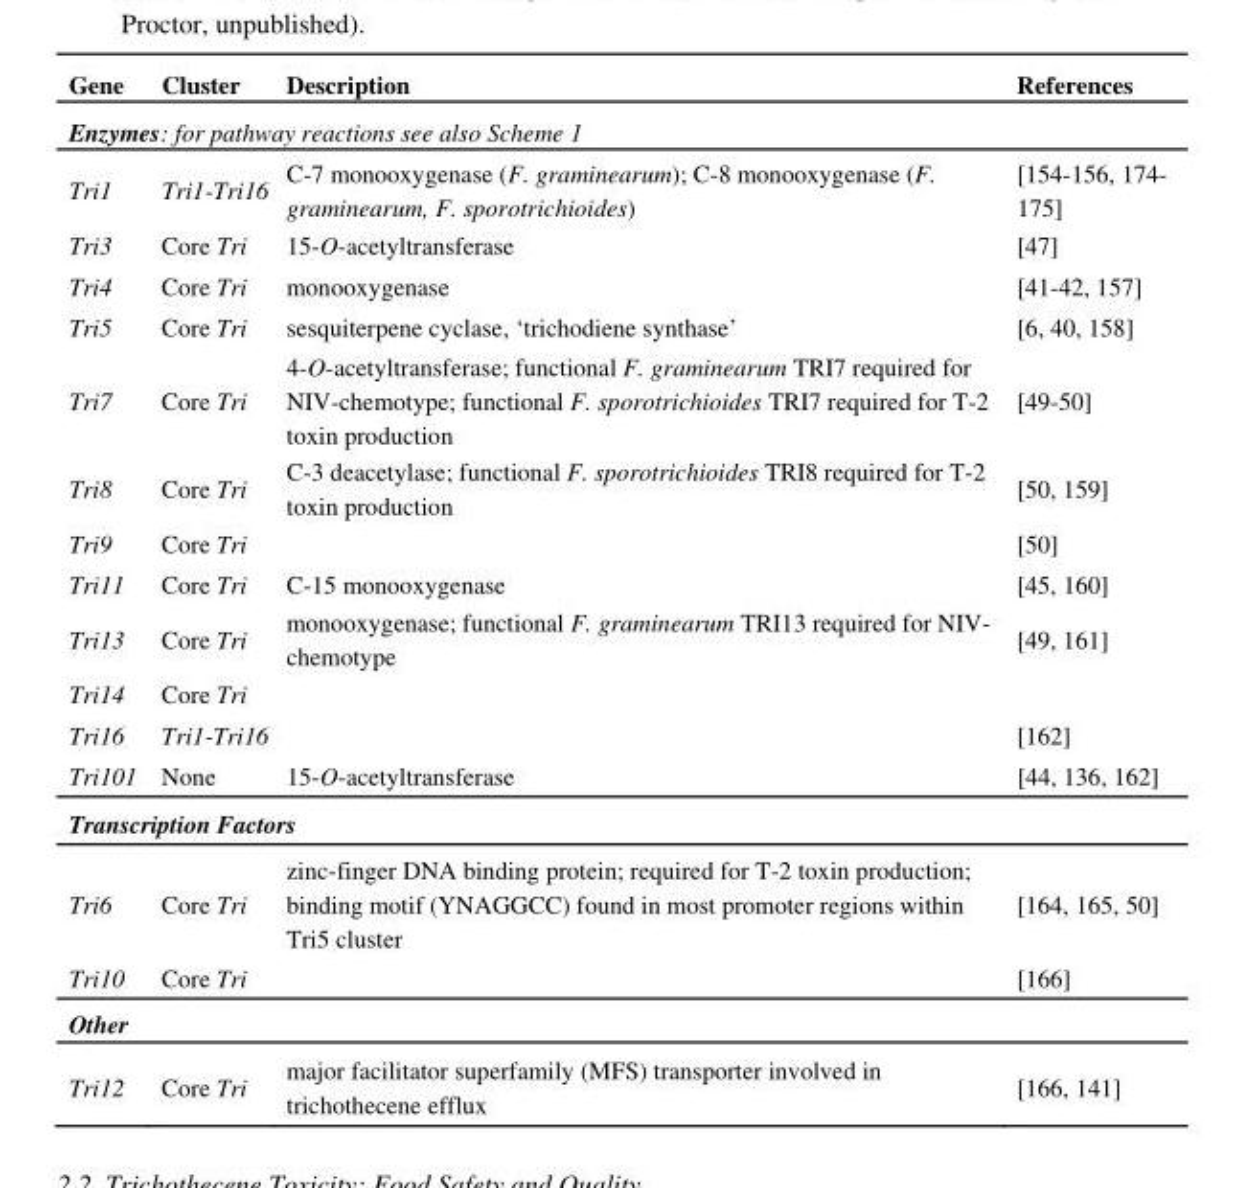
<table><thead><tr><td>Gene</td><td>Cluster</td><td>Description</td><td>References</td></tr></thead><tbody><tr><td colspan="4">Enzymes: for pathway reactions see also Scheme 1</td></tr><tr><td>Tri1</td><td>Tri1-Tri16</td><td>C-7 monooxygenase (F. graminearum); C-8 monooxygenase (F. graminearum, F. sporotrichioides)</td><td>[154-156, 174- 175]</td></tr><tr><td>Tri3</td><td>Core Tri</td><td>15-O-acetyltransferase</td><td>[47]</td></tr><tr><td>Tri4</td><td>Core Tri</td><td>monooxygenase</td><td>[41-42, 157]</td></tr><tr><td>Tri5</td><td>Core Tri</td><td>sesquiterpene cyclase, ‘trichodiene synthase’ 4-O-acetyltransferase; functional F. graminearum TRI7 required for</td><td>[6, 40, 158]</td></tr><tr><td>Tri7</td><td>Core Tri</td><td>NIV-chemotype; functional F. sporotrichioides TRI7 required for T-2 toxin production</td><td>[49-50]</td></tr><tr><td>Tri8</td><td>Core Tri</td><td>C-3 deacetylase; functional F. sporotrichioides TRI8 required for T-2 toxin production</td><td>[50, 159]</td></tr><tr><td>Tri9</td><td>Core Tri</td><td></td><td>[50]</td></tr><tr><td>Tri11</td><td>Core Tri</td><td>C-15 monooxygenase</td><td>[45, 160]</td></tr><tr><td>Tri13</td><td>Core Tri</td><td>monooxygenase; functional F. graminearum TRI13 required for NIV- chemotype</td><td>[49, 161]</td></tr><tr><td>Tri14</td><td>Core Tri</td><td></td><td></td></tr><tr><td>Tri16</td><td>Tri1-Tri16</td><td></td><td>[162]</td></tr><tr><td>Tri101</td><td>None</td><td>15-O-acetyltransferase</td><td>[44, 136, 162]</td></tr><tr><td colspan="4">Transcription Factors</td></tr><tr><td>Tri6</td><td>Core Tri</td><td>zinc-finger DNA binding protein; required for T-2 toxin production; binding motif (YNAGGCC) found in most promoter regions within Tri5 cluster</td><td>[164, 165, 50]</td></tr><tr><td>Tri10</td><td>Core Tri</td><td></td><td>[166]</td></tr><tr><td colspan="4">Other</td></tr><tr><td>Tri12</td><td>Core Tri</td><td>major facilitator superfamily (MFS) transporter involved in trichothecene efflux</td><td>[166, 141]</td></tr></tbody></table>